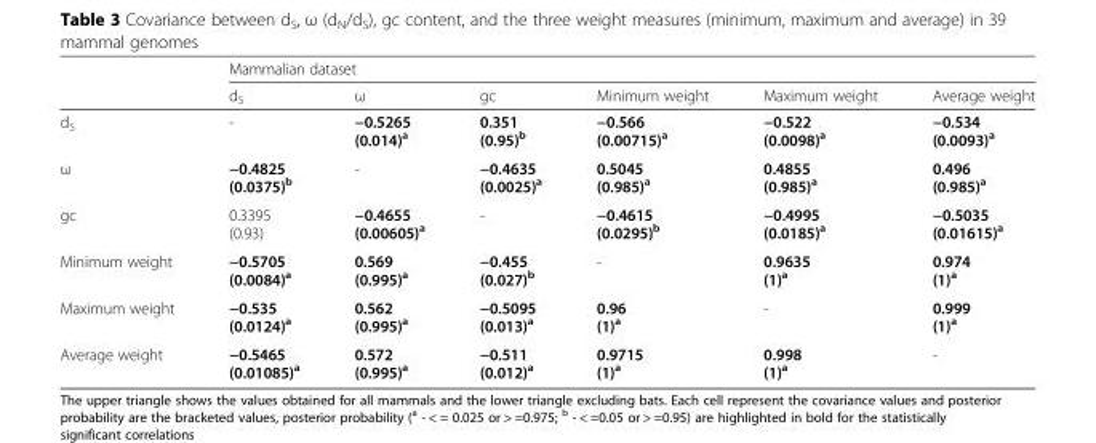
<table><thead><tr><td rowspan="2"></td><td colspan="6">Mammalian dataset</td></tr><tr><td>d<sub>S</sub></td><td>ω</td><td>gc</td><td>Minimum weight</td><td>Maximum weight</td><td>Average weight</td></tr></thead><tbody><tr><td>d<sub>S</sub></td><td>-</td><td>−0.5265 (0.014)<sup>a</sup></td><td>0.351 (0.95)<sup>b</sup></td><td>−0.566 (0.00715)<sup>a</sup></td><td>−0.522 (0.0098)<sup>a</sup></td><td>−0.534 (0.0093)<sup>a</sup></td></tr><tr><td>ω</td><td>−0.4825 (0.0375)<sup>b</sup></td><td>-</td><td>−0.4635 (0.0025)<sup>a</sup></td><td>0.5045 (0.985)<sup>a</sup></td><td>0.4855 (0.985)<sup>a</sup></td><td>0.496 (0.985)<sup>a</sup></td></tr><tr><td>gc</td><td>0.3395 (0.93)</td><td>−0.4655 (0.00605)<sup>a</sup></td><td>-</td><td>−0.4615 (0.0295)<sup>b</sup></td><td>−0.4995 (0.0185)<sup>a</sup></td><td>−0.5035 (0.01615)<sup>a</sup></td></tr><tr><td>Minimum weight</td><td>−0.5705 (0.0084)<sup>a</sup></td><td>0.569 (0.995)<sup>a</sup></td><td>−0.455 (0.027)<sup>b</sup></td><td>-</td><td>0.9635 (1)<sup>a</sup></td><td>0.974 (1)<sup>a</sup></td></tr><tr><td>Maximum weight</td><td>−0.535 (0.0124)<sup>a</sup></td><td>0.562 (0.995)<sup>a</sup></td><td>−0.5095 (0.013)<sup>a</sup></td><td>0.96 (1)<sup>a</sup></td><td>-</td><td>0.999 (1)<sup>a</sup></td></tr><tr><td>Average weight</td><td>−0.5465 (0.01085)<sup>a</sup></td><td>0.572 (0.995)<sup>a</sup></td><td>−0.511 (0.012)<sup>a</sup></td><td>0.9715 (1)<sup>a</sup></td><td>0.998 (1)<sup>a</sup></td><td>-</td></tr></tbody></table>